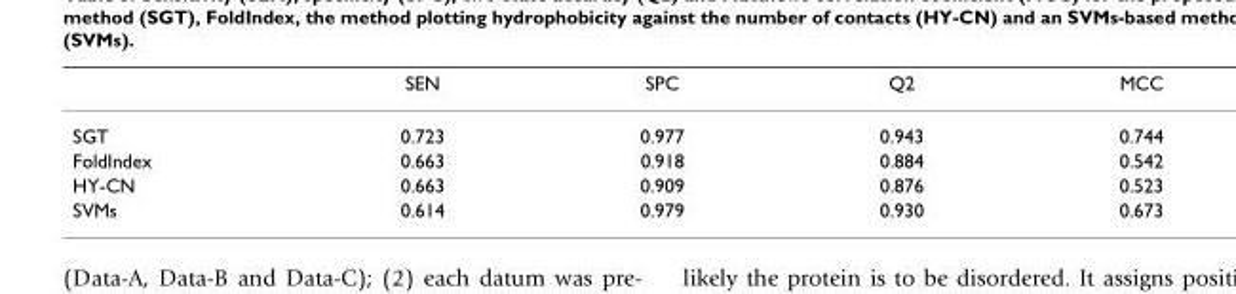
<table><thead><tr><td></td><td>SEN</td><td>SPC</td><td>Q2</td><td>MCC</td></tr></thead><tbody><tr><td>SGT</td><td>0.723</td><td>0.977</td><td>0.943</td><td>0.744</td></tr><tr><td>FoldIndex</td><td>0.663</td><td>0.918</td><td>0.884</td><td>0.542</td></tr><tr><td>HY-CN</td><td>0.663</td><td>0.909</td><td>0.876</td><td>0.523</td></tr><tr><td>SVMs</td><td>0.614</td><td>0.979</td><td>0.930</td><td>0.673</td></tr></tbody></table>